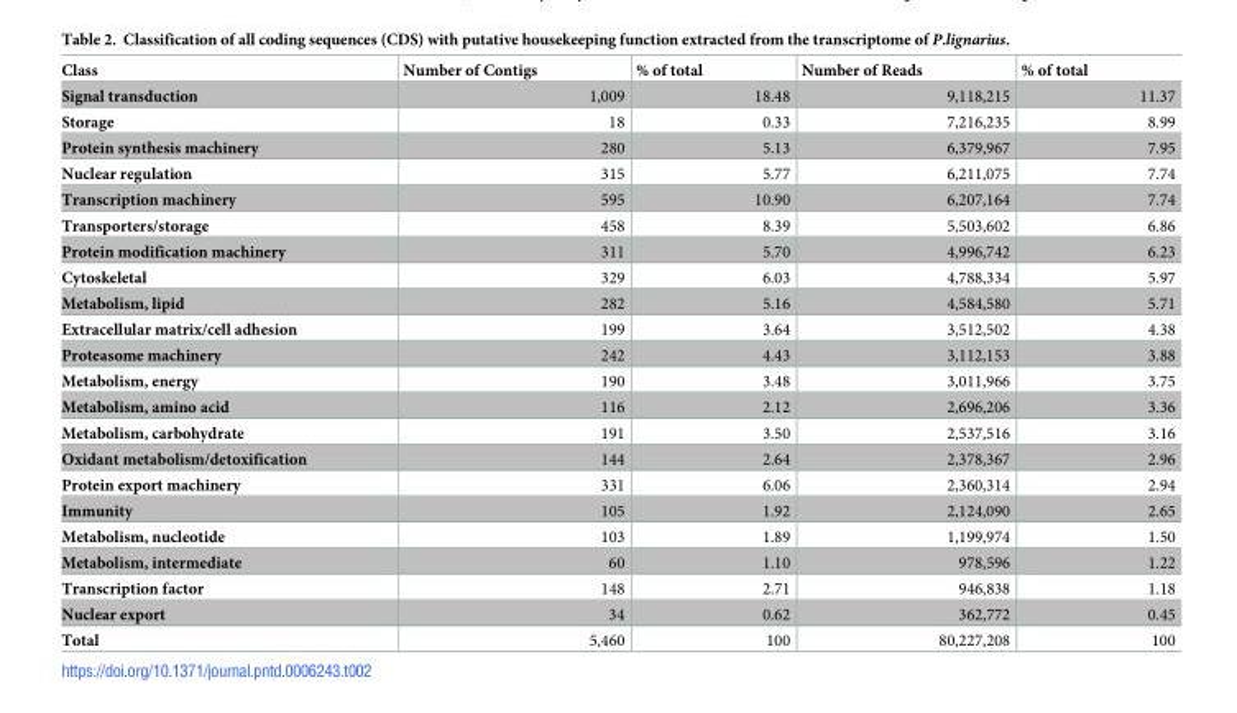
<table><thead><tr><td>Class</td><td>Number of Contigs</td><td>% of total</td><td>Number of Reads</td><td>% of total</td></tr></thead><tbody><tr><td>Signal transduction</td><td>1,009</td><td>18.48</td><td>9,118,215</td><td>11.37</td></tr><tr><td>Storage</td><td>18</td><td>0.33</td><td>7,216,235</td><td>8.99</td></tr><tr><td>Protein synthesis machinery</td><td>280</td><td>5.13</td><td>6,379,967</td><td>7.95</td></tr><tr><td>Nuclear regulation</td><td>315</td><td>5.77</td><td>6,211,075</td><td>7.74</td></tr><tr><td>Transcription machinery</td><td>595</td><td>10.90</td><td>6,207,164</td><td>7.74</td></tr><tr><td>Transporters/storage</td><td>458</td><td>8.39</td><td>5,503,602</td><td>6.86</td></tr><tr><td>Protein modification machinery</td><td>311</td><td>5.70</td><td>4,996,742</td><td>6.23</td></tr><tr><td>Cytoskeletal</td><td>329</td><td>6.03</td><td>4,788,334</td><td>5.97</td></tr><tr><td>Metabolism, lipid</td><td>282</td><td>5.16</td><td>4,584,580</td><td>5.71</td></tr><tr><td>Extracellular matrix/cell adhesion</td><td>199</td><td>3.64</td><td>3,512,502</td><td>4.38</td></tr><tr><td>Proteasome machinery</td><td>242</td><td>4.43</td><td>3,112,153</td><td>3.88</td></tr><tr><td>Metabolism, energy</td><td>190</td><td>3.48</td><td>3,011,966</td><td>3.75</td></tr><tr><td>Metabolism, amino acid</td><td>116</td><td>2.12</td><td>2,696,206</td><td>3.36</td></tr><tr><td>Metabolism, carbohydrate</td><td>191</td><td>3.50</td><td>2,537,516</td><td>3.16</td></tr><tr><td>Oxidant metabolism/detoxification</td><td>144</td><td>2.64</td><td>2,378,367</td><td>2.96</td></tr><tr><td>Protein export machinery</td><td>331</td><td>6.06</td><td>2,360,314</td><td>2.94</td></tr><tr><td>Immunity</td><td>105</td><td>1.92</td><td>2,124,090</td><td>2.65</td></tr><tr><td>Metabolism, nucleotide</td><td>103</td><td>1.89</td><td>1,199,974</td><td>1.50</td></tr><tr><td>Metabolism, intermediate</td><td>60</td><td>1.10</td><td>978,596</td><td>1.22</td></tr><tr><td>Transcription factor</td><td>148</td><td>2.71</td><td>946,838</td><td>1.18</td></tr><tr><td>Nuclear export</td><td>34</td><td>0.62</td><td>362,772</td><td>0.45</td></tr><tr><td>Total</td><td>5,460</td><td>100</td><td>80,227,208</td><td>100</td></tr></tbody></table>